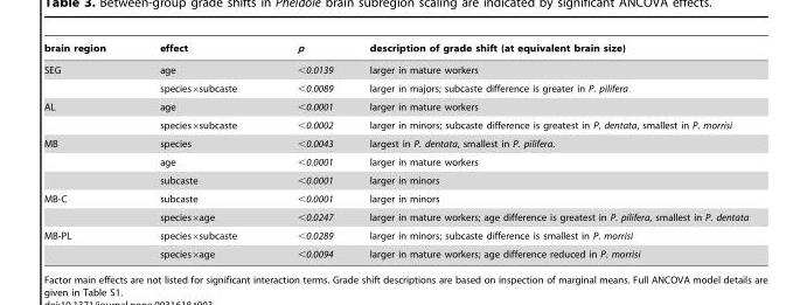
<table><thead><tr><td>brain region</td><td>effect</td><td>p</td><td>description of grade shift (at equivalent brain size)</td></tr></thead><tbody><tr><td rowspan="2">SEG</td><td>age</td><td>&lt;0.0139</td><td>larger in mature workers</td></tr><tr><td>species×subcaste</td><td>&lt;0.0089</td><td>larger in majors; subcaste difference is greater in P. pilifera</td></tr><tr><td rowspan="2">AL</td><td>age</td><td>&lt;0.0001</td><td>larger in mature workers</td></tr><tr><td>species×subcaste</td><td>&lt;0.0002</td><td>larger in minors; subcaste difference is greatest in P. dentata, smallest in P. morrisi</td></tr><tr><td rowspan="3">MB</td><td>species</td><td>&lt;0.0043</td><td>largest in P. dentata, smallest in P. pilifera.</td></tr><tr><td>age</td><td>&lt;0.0001</td><td>larger in mature workers</td></tr><tr><td>subcaste</td><td>&lt;0.0001</td><td>larger in minors</td></tr><tr><td rowspan="2">MB-C</td><td>subcaste</td><td>&lt;0.0001</td><td>larger in minors</td></tr><tr><td>species×age</td><td>&lt;0.0247</td><td>larger in mature workers; age difference is greatest in P. pilifera, smallest in P. dentata</td></tr><tr><td rowspan="2">MB-PL</td><td>species×subcaste</td><td>&lt;0.0289</td><td>larger in minors; subcaste difference is smallest in P. morrisi</td></tr><tr><td>species×age</td><td>&lt;0.0094</td><td>larger in mature workers; age difference reduced in P. morrisi</td></tr></tbody></table>